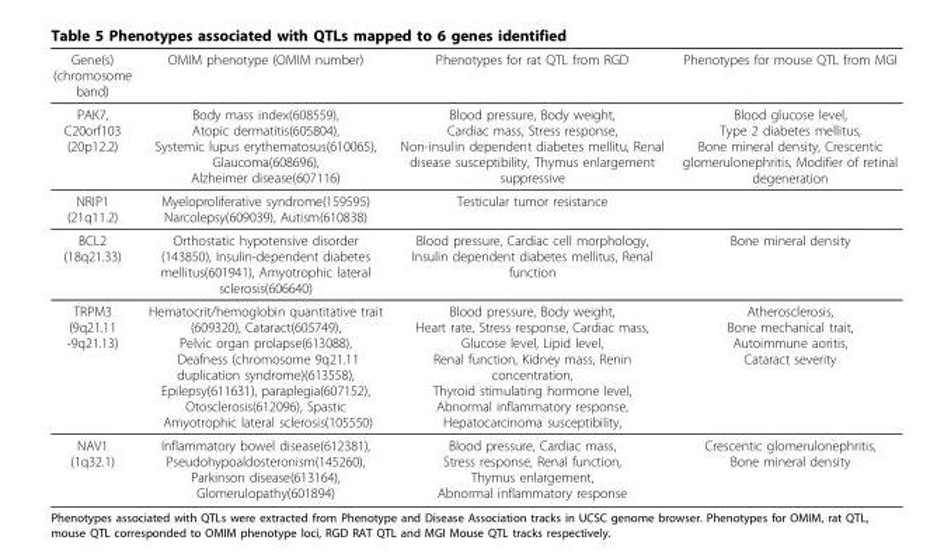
<table><thead><tr><td>Gene(s) (chromosome band)</td><td>OMIM phenotype (OMIM number)</td><td>Phenotypes for rat QTL from RGD</td><td>Phenotypes for mouse QTL from MGI</td></tr></thead><tbody><tr><td>PAK7, C20orf103 (20p12.2)</td><td>Body mass index(608559), Atopic dermatitis(605804), Systemic lupus erythematosus(610065), Glaucoma(608696), Alzheimer disease(607116)</td><td>Blood pressure, Body weight, Cardiac mass, Stress response, Non-insulin dependent diabetes mellitu, Renal disease susceptibility, Thymus enlargement suppressive</td><td>Blood glucose level, Type 2 diabetes mellitus, Bone mineral density, Crescentic glomerulonephritis, Modifier of retinal degeneration</td></tr><tr><td>NRIP1 (21q11.2)</td><td>Myeloproliferative syndrome(159595) Narcolepsy(609039), Autism(610838)</td><td>Testicular tumor resistance</td><td></td></tr><tr><td>BCL2 (18q21.33)</td><td>Orthostatic hypotensive disorder (143850), Insulin-dependent diabetes mellitus(601941), Amyotrophic lateral sclerosis(606640)</td><td>Blood pressure, Cardiac cell morphology, Insulin dependent diabetes mellitus, Renal function</td><td>Bone mineral density</td></tr><tr><td>TRPM3 (9q21.11 -9q21.13)</td><td>Hematocrit/hemoglobin quantitative trait (609320), Cataract(605749), Pelvic organ prolapse(613088), Deafness (chromosome 9q21.11 duplication syndrome)(613558), Epilepsy(611631), paraplegia(607152), Otosclerosis(612096), Spastic Amyotrophic lateral sclerosis(105550)</td><td>Blood pressure, Body weight, Heart rate, Stress response, Cardiac mass, Glucose level, Lipid level, Renal function, Kidney mass, Renin concentration, Thyroid stimulating hormone level, Abnormal inflammatory response, Hepatocarcinoma susceptibility,</td><td>Atherosclerosis, Bone mechanical trait, Autoimmune aoritis, Cataract severity</td></tr><tr><td>NAV1 (1q32.1)</td><td>Inflammatory bowel disease(612381), Pseudohypoaldosteronism(145260), Parkinson disease(613164), Glomerulopathy(601894)</td><td>Blood pressure, Cardiac mass, Stress response, Renal function, Thymus enlargement, Abnormal inflammatory response</td><td>Crescentic glomerulonephritis, Bone mineral density</td></tr></tbody></table>